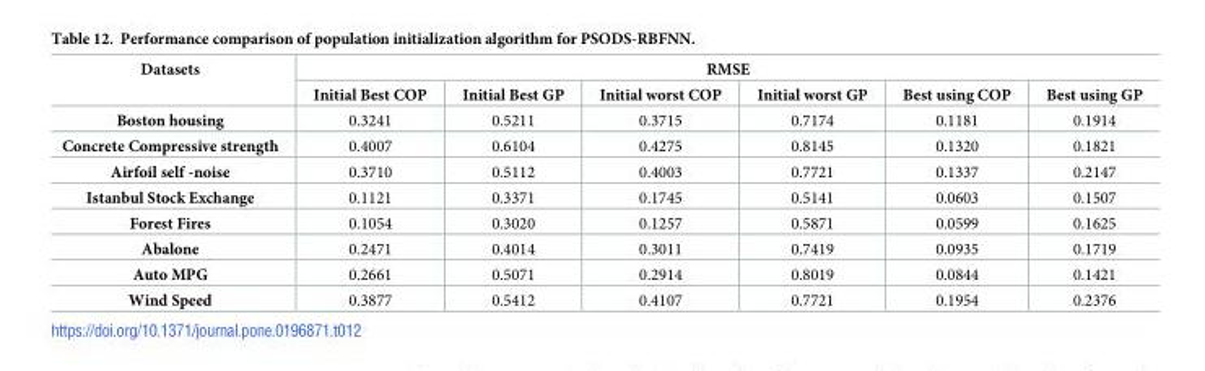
<table><thead><tr><td rowspan="2">Datasets</td><td colspan="6">RMSE</td></tr><tr><td>Initial Best COP</td><td>Initial Best GP</td><td>Initial worst COP</td><td>Initial worst GP</td><td>Best using COP</td><td>Best using GP</td></tr></thead><tbody><tr><td>Boston housing</td><td>0.3241</td><td>0.5211</td><td>0.3715</td><td>0.7174</td><td>0.1181</td><td>0.1914</td></tr><tr><td>Concrete Compressive strength</td><td>0.4007</td><td>0.6104</td><td>0.4275</td><td>0.8145</td><td>0.1320</td><td>0.1821</td></tr><tr><td>Airfoil self -noise</td><td>0.3710</td><td>0.5112</td><td>0.4003</td><td>0.7721</td><td>0.1337</td><td>0.2147</td></tr><tr><td>Istanbul Stock Exchange</td><td>0.1121</td><td>0.3371</td><td>0.1745</td><td>0.5141</td><td>0.0603</td><td>0.1507</td></tr><tr><td>Forest Fires</td><td>0.1054</td><td>0.3020</td><td>0.1257</td><td>0.5871</td><td>0.0599</td><td>0.1625</td></tr><tr><td>Abalone</td><td>0.2471</td><td>0.4014</td><td>0.3011</td><td>0.7419</td><td>0.0935</td><td>0.1719</td></tr><tr><td>Auto MPG</td><td>0.2661</td><td>0.5071</td><td>0.2914</td><td>0.8019</td><td>0.0844</td><td>0.1421</td></tr><tr><td>Wind Speed</td><td>0.3877</td><td>0.5412</td><td>0.4107</td><td>0.7721</td><td>0.1954</td><td>0.2376</td></tr></tbody></table>